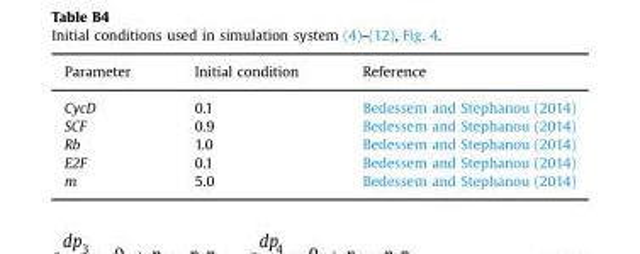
<table><thead><tr><td>Parameter</td><td>Initial condition</td><td>Reference</td></tr></thead><tbody><tr><td>CycD</td><td>0.1</td><td>Bedessem and Stephanou (2014)</td></tr><tr><td>SCF</td><td>0.9</td><td>Bedessem and Stephanou (2014)</td></tr><tr><td>Rb</td><td>1.0</td><td>Bedessem and Stephanou (2014)</td></tr><tr><td>E2F</td><td>0.1</td><td>Bedessem and Stephanou (2014)</td></tr><tr><td>m</td><td>5.0</td><td>Bedessem and Stephanou (2014)</td></tr></tbody></table>